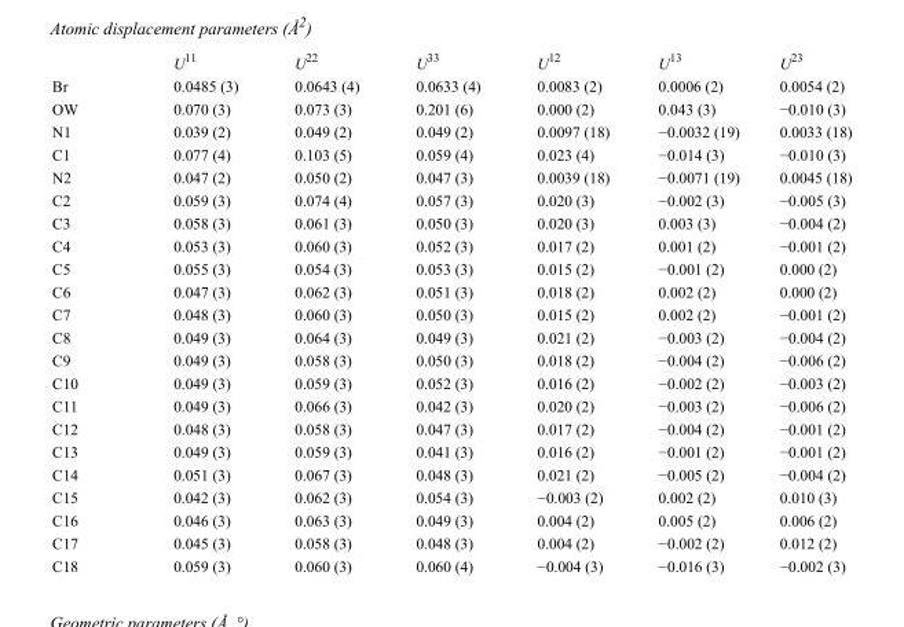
<table><thead><tr><td></td><td>U<sup>11</sup></td><td>U<sup>22</sup></td><td>U<sup>33</sup></td><td>U<sup>12</sup></td><td>U<sup>13</sup></td><td>U<sup>23</sup></td></tr></thead><tbody><tr><td>Br</td><td>0.0485 (3)</td><td>0.0643 (4)</td><td>0.0633 (4)</td><td>0.0083 (2)</td><td>0.0006 (2)</td><td>0.0054 (2)</td></tr><tr><td>OW</td><td>0.070 (3)</td><td>0.073 (3)</td><td>0.201 (6)</td><td>0.000 (2)</td><td>0.043 (3)</td><td>−0.010 (3)</td></tr><tr><td>N1</td><td>0.039 (2)</td><td>0.049 (2)</td><td>0.049 (2)</td><td>0.0097 (18)</td><td>−0.0032 (19)</td><td>0.0033 (18)</td></tr><tr><td>C1</td><td>0.077 (4)</td><td>0.103 (5)</td><td>0.059 (4)</td><td>0.023 (4)</td><td>−0.014 (3)</td><td>−0.010 (3)</td></tr><tr><td>N2</td><td>0.047 (2)</td><td>0.050 (2)</td><td>0.047 (3)</td><td>0.0039 (18)</td><td>−0.0071 (19)</td><td>0.0045 (18)</td></tr><tr><td>C2</td><td>0.059 (3)</td><td>0.074 (4)</td><td>0.057 (3)</td><td>0.020 (3)</td><td>−0.002 (3)</td><td>−0.005 (3)</td></tr><tr><td>C3</td><td>0.058 (3)</td><td>0.061 (3)</td><td>0.050 (3)</td><td>0.020 (3)</td><td>0.003 (3)</td><td>−0.004 (2)</td></tr><tr><td>C4</td><td>0.053 (3)</td><td>0.060 (3)</td><td>0.052 (3)</td><td>0.017 (2)</td><td>0.001 (2)</td><td>−0.001 (2)</td></tr><tr><td>C5</td><td>0.055 (3)</td><td>0.054 (3)</td><td>0.053 (3)</td><td>0.015 (2)</td><td>−0.001 (2)</td><td>0.000 (2)</td></tr><tr><td>C6</td><td>0.047 (3)</td><td>0.062 (3)</td><td>0.051 (3)</td><td>0.018 (2)</td><td>0.002 (2)</td><td>0.000 (2)</td></tr><tr><td>C7</td><td>0.048 (3)</td><td>0.060 (3)</td><td>0.050 (3)</td><td>0.015 (2)</td><td>0.002 (2)</td><td>−0.001 (2)</td></tr><tr><td>C8</td><td>0.049 (3)</td><td>0.064 (3)</td><td>0.049 (3)</td><td>0.021 (2)</td><td>−0.003 (2)</td><td>−0.004 (2)</td></tr><tr><td>C9</td><td>0.049 (3)</td><td>0.058 (3)</td><td>0.050 (3)</td><td>0.018 (2)</td><td>−0.004 (2)</td><td>−0.006 (2)</td></tr><tr><td>C10</td><td>0.049 (3)</td><td>0.059 (3)</td><td>0.052 (3)</td><td>0.016 (2)</td><td>−0.002 (2)</td><td>−0.003 (2)</td></tr><tr><td>C11</td><td>0.049 (3)</td><td>0.066 (3)</td><td>0.042 (3)</td><td>0.020 (2)</td><td>−0.003 (2)</td><td>−0.006 (2)</td></tr><tr><td>C12</td><td>0.048 (3)</td><td>0.058 (3)</td><td>0.047 (3)</td><td>0.017 (2)</td><td>−0.004 (2)</td><td>−0.001 (2)</td></tr><tr><td>C13</td><td>0.049 (3)</td><td>0.059 (3)</td><td>0.041 (3)</td><td>0.016 (2)</td><td>−0.001 (2)</td><td>−0.001 (2)</td></tr><tr><td>C14</td><td>0.051 (3)</td><td>0.067 (3)</td><td>0.048 (3)</td><td>0.021 (2)</td><td>−0.005 (2)</td><td>−0.004 (2)</td></tr><tr><td>C15</td><td>0.042 (3)</td><td>0.062 (3)</td><td>0.054 (3)</td><td>−0.003 (2)</td><td>0.002 (2)</td><td>0.010 (3)</td></tr><tr><td>C16</td><td>0.046 (3)</td><td>0.063 (3)</td><td>0.049 (3)</td><td>0.004 (2)</td><td>0.005 (2)</td><td>0.006 (2)</td></tr><tr><td>C17</td><td>0.045 (3)</td><td>0.058 (3)</td><td>0.048 (3)</td><td>0.004 (2)</td><td>−0.002 (2)</td><td>0.012 (2)</td></tr><tr><td>C18</td><td>0.059 (3)</td><td>0.060 (3)</td><td>0.060 (4)</td><td>−0.004 (3)</td><td>−0.016 (3)</td><td>−0.002 (3)</td></tr></tbody></table>